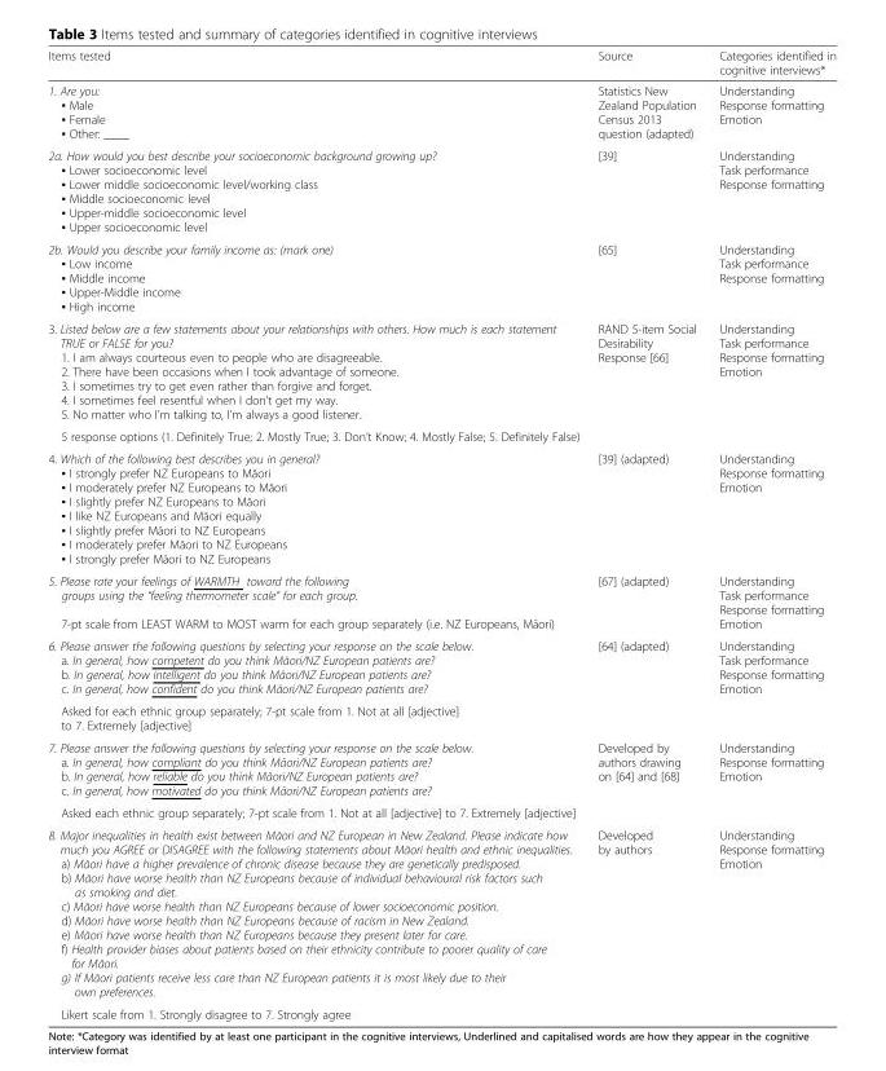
<table><thead><tr><td>Items tested</td><td>Source</td><td>Categories identified in cognitive interviews*</td></tr></thead><tbody><tr><td>1. Are you: ▪ Male ▪ Female ▪ Other: ____</td><td>Statistics New Zealand Population Census 2013 question (adapted)</td><td>Understanding Response formatting Emotion</td></tr><tr><td>2a. How would you best describe your socioeconomic background growing up? ▪ Lower socioeconomic level ▪ Lower middle socioeconomic level/working class ▪ Middle socioeconomic level ▪ Upper-middle socioeconomic level ▪ Upper socioeconomic level</td><td>[39]</td><td>Understanding Task performance Response formatting</td></tr><tr><td>2b. Would you describe your family income as: (mark one) ▪ Low income ▪ Middle income ▪ Upper-Middle income ▪ High income</td><td>[65]</td><td>Understanding Task performance Response formatting</td></tr><tr><td>3. Listed below are a few statements about your relationships with others. How much is each statement TRUE or FALSE for you? 1. I am always courteous even to people who are disagreeable. 2. There have been occasions when I took advantage of someone. 3. I sometimes try to get even rather than forgive and forget. 4. I sometimes feel resentful when I don’t get my way. 5. No matter who I’m talking to, I’m always a good listener.</td><td>RAND 5-item Social Desirability Response [66]</td><td>Understanding Task performance Response formatting Emotion</td></tr><tr><td colspan="3">5 response options (1. Definitely True; 2. Mostly True; 3. Don’t Know; 4. Mostly False; 5. Definitely False)</td></tr><tr><td>4. Which of the following best describes you in general? ▪ I strongly prefer NZ Europeans to Māori ▪ I moderately prefer NZ Europeans to Māori ▪ I slightly prefer NZ Europeans to Māori ▪ I like NZ Europeans and Māori equally ▪ I slightly prefer Māori to NZ Europeans ▪ I moderately prefer Māori to NZ Europeans ▪ I strongly prefer Māori to NZ Europeans</td><td>[39] (adapted)</td><td>Understanding Response formatting Emotion</td></tr><tr><td>5. Please rate your feelings of WARMTH toward the following groups using the “feeling thermometer scale” for each group. 7-pt scale from LEAST WARM to MOST warm for each group separately (i.e. NZ Europeans, Māori)</td><td>[67] (adapted)</td><td>Understanding Task performance Response formatting Emotion</td></tr><tr><td>6. Please answer the following questions by selecting your response on the scale below. a. In general, how competent do you think Māori/NZ European patients are? b. In general, how intelligent do you think Māori/NZ European patients are? c. In general, how confident do you think Māori/NZ European patients are?</td><td>[64] (adapted)</td><td>Understanding Task performance Response formatting Emotion</td></tr><tr><td colspan="3">Asked for each ethnic group separately; 7-pt scale from 1. Not at all [adjective] to 7. Extremely [adjective]</td></tr><tr><td>7. Please answer the following questions by selecting your response on the scale below. a. In general, how compliant do you think Māori/NZ European patients are? b. In general, how reliable do you think Māori/NZ European patients are? c. In general, how motivated do you think Māori/NZ European patients are?</td><td>Developed by authors drawing on [64] and [68]</td><td>Understanding Response formatting Emotion</td></tr><tr><td colspan="3">Asked each ethnic group separately; 7-pt scale from 1. Not at all [adjective] to 7. Extremely [adjective]</td></tr><tr><td>8. Major inequalities in health exist between Māori and NZ European in New Zealand. Please indicate how much you AGREE or DISAGREE with the following statements about Māori health and ethnic inequalities. a) Māori have a higher prevalence of chronic disease because they are genetically predisposed. b) Māori have worse health than NZ Europeans because of individual behavioural risk factors such as smoking and diet. c) Māori have worse health than NZ Europeans because of lower socioeconomic position. d) Māori have worse health than NZ Europeans because of racism in New Zealand. e) Māori have worse health than NZ Europeans because they present later for care. f) Health provider biases about patients based on their ethnicity contribute to poorer quality of care for Māori. g) If Māori patients receive less care than NZ European patients it is most likely due to their own preferences.</td><td>Developed by authors</td><td>Understanding Response formatting Emotion</td></tr><tr><td>Likert scale from 1. Strongly disagree to 7. Strongly agree</td><td></td><td></td></tr></tbody></table>